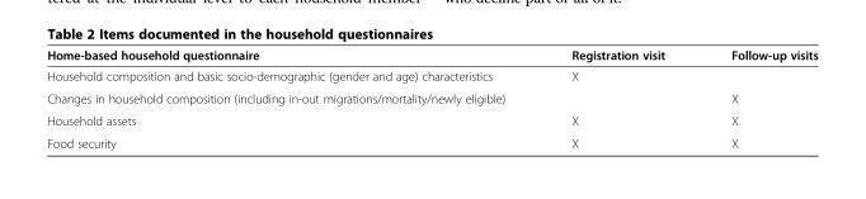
<table><thead><tr><td>Home-based household questionnaire</td><td>Registration visit</td><td>Follow-up visits</td></tr></thead><tbody><tr><td>Household composition and basic socio-demographic (gender and age) characteristics</td><td>X</td><td></td></tr><tr><td>Changes in household composition (including in-out migrations/mortality/newly eligible)</td><td></td><td>X</td></tr><tr><td>Household assets</td><td>X</td><td>X</td></tr><tr><td>Food security</td><td>X</td><td>X</td></tr></tbody></table>